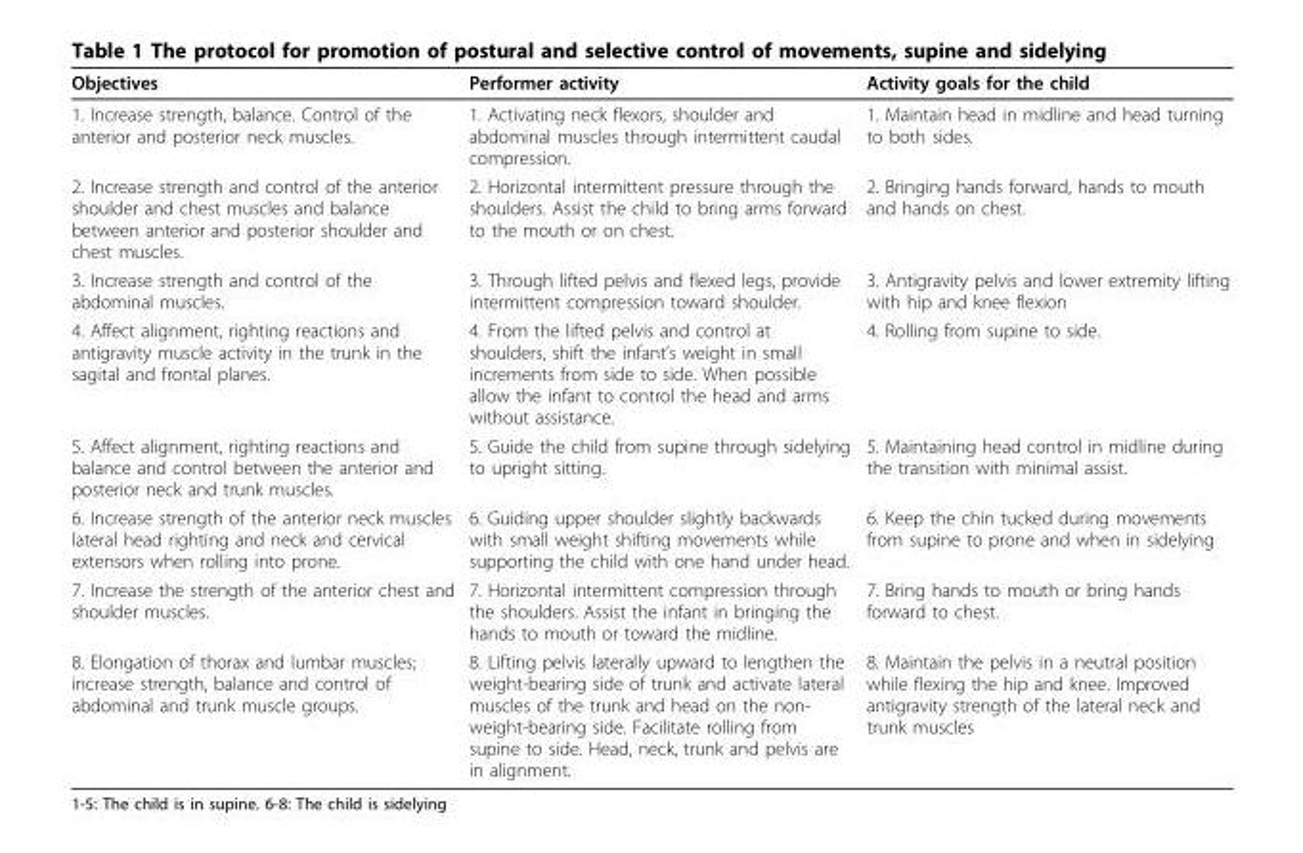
<table><thead><tr><td>Objectives</td><td>Performer activity</td><td>Activity goals for the child</td></tr></thead><tbody><tr><td>1. Increase strength, balance. Control of the anterior and posterior neck muscles.</td><td>1. Activating neck flexors, shoulder and abdominal muscles through intermittent caudal compression.</td><td>1. Maintain head in midline and head turning to both sides.</td></tr><tr><td>2. Increase strength and control of the anterior shoulder and chest muscles and balance between anterior and posterior shoulder and chest muscles.</td><td>2. Horizontal intermittent pressure through the shoulders. Assist the child to bring arms forward to the mouth or on chest.</td><td>2. Bringing hands forward, hands to mouth and hands on chest.</td></tr><tr><td>3. Increase strength and control of the abdominal muscles.</td><td>3. Through lifted pelvis and flexed legs, provide intermittent compression toward shoulder.</td><td>3. Antigravity pelvis and lower extremity lifting with hip and knee flexion</td></tr><tr><td>4. Affect alignment, righting reactions and antigravity muscle activity in the trunk in the sagital and frontal planes.</td><td>4. From the lifted pelvis and control at shoulders, shift the infant’s weight in small increments from side to side. When possible allow the infant to control the head and arms without assistance.</td><td>4. Rolling from supine to side.</td></tr><tr><td>5. Affect alignment, righting reactions and balance and control between the anterior and posterior neck and trunk muscles.</td><td>5. Guide the child from supine through sidelying to upright sitting.</td><td>5. Maintaining head control in midline during the transition with minimal assist.</td></tr><tr><td>6. Increase strength of the anterior neck muscles lateral head righting and neck and cervical extensors when rolling into prone.</td><td>6. Guiding upper shoulder slightly backwards with small weight shifting movements while supporting the child with one hand under head.</td><td>6. Keep the chin tucked during movements from supine to prone and when in sidelying</td></tr><tr><td>7. Increase the strength of the anterior chest and shoulder muscles.</td><td>7. Horizontal intermittent compression through the shoulders. Assist the infant in bringing the hands to mouth or toward the midline.</td><td>7. Bring hands to mouth or bring hands forward to chest.</td></tr><tr><td>8. Elongation of thorax and lumbar muscles; increase strength, balance and control of abdominal and trunk muscle groups.</td><td>8. Lifting pelvis laterally upward to lengthen the weight-bearing side of trunk and activate lateral muscles of the trunk and head on the non- weight-bearing side. Facilitate rolling from supine to side. Head, neck, trunk and pelvis are in alignment.</td><td>8. Maintain the pelvis in a neutral position while flexing the hip and knee. Improved antigravity strength of the lateral neck and trunk muscles</td></tr></tbody></table>